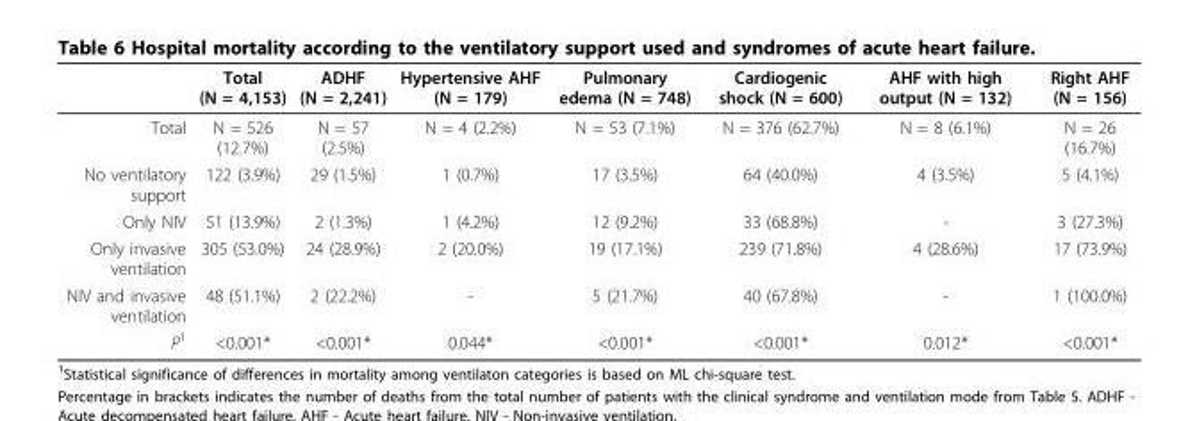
<table><thead><tr><td></td><td>Total (N = 4,153)</td><td>ADHF (N = 2,241)</td><td>Hypertensive AHF (N = 179)</td><td>Pulmonary edema (N = 748)</td><td>Cardiogenic shock (N = 600)</td><td>AHF with high output (N = 132)</td><td>Right AHF (N = 156)</td></tr></thead><tbody><tr><td>Total</td><td>N = 526 (12.7%)</td><td>N = 57 (2.5%)</td><td>N = 4 (2.2%)</td><td>N = 53 (7.1%)</td><td>N = 376 (62.7%)</td><td>N = 8 (6.1%)</td><td>N = 26 (16.7%)</td></tr><tr><td>No ventilatory support</td><td>122 (3.9%)</td><td>29 (1.5%)</td><td>1 (0.7%)</td><td>17 (3.5%)</td><td>64 (40.0%)</td><td>4 (3.5%)</td><td>5 (4.1%)</td></tr><tr><td>Only NIV</td><td>51 (13.9%)</td><td>2 (1.3%)</td><td>1 (4.2%)</td><td>12 (9.2%)</td><td>33 (68.8%)</td><td>-</td><td>3 (27.3%)</td></tr><tr><td>Only invasive ventilation</td><td>305 (53.0%)</td><td>24 (28.9%)</td><td>2 (20.0%)</td><td>19 (17.1%)</td><td>239 (71.8%)</td><td>4 (28.6%)</td><td>17 (73.9%)</td></tr><tr><td>NIV and invasive ventilation</td><td>48 (51.1%)</td><td>2 (22.2%)</td><td>-</td><td>5 (21.7%)</td><td>40 (67.8%)</td><td>-</td><td>1 (100.0%)</td></tr><tr><td>P<sup>1</sup></td><td>&lt;0.001*</td><td>&lt;0.001*</td><td>0.044*</td><td>&lt;0.001*</td><td>&lt;0.001*</td><td>0.012*</td><td>&lt;0.001*</td></tr></tbody></table>